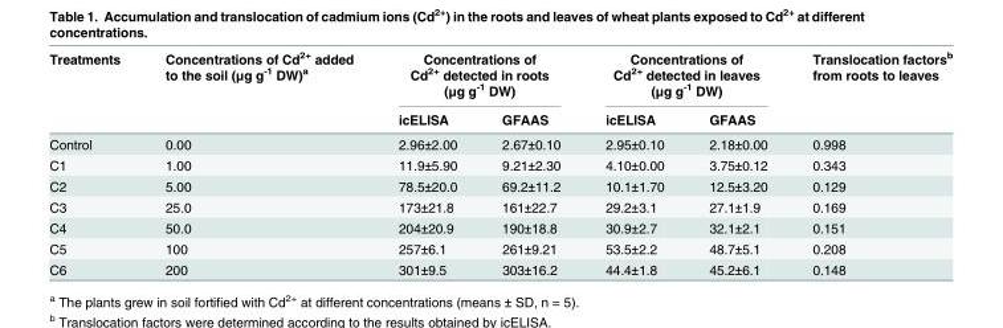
<table><thead><tr><td rowspan="2">Treatments</td><td rowspan="2">Concentrations of Cd<sup>2+</sup> added to the soil (μg g<sup>-1</sup> DW)<sup>a</sup></td><td colspan="2">Concentrations of Cd<sup>2+</sup> detected in roots (μg g<sup>-1</sup> DW)</td><td colspan="2">Concentrations of Cd<sup>2+</sup> detected in leaves (μg g<sup>-1</sup> DW)</td><td rowspan="2">Translocation factors<sup>b</sup> from roots to leaves</td></tr><tr><td>icELISA</td><td>GFAAS</td><td>icELISA</td><td>GFAAS</td></tr></thead><tbody><tr><td>Control</td><td>0.00</td><td>2.96±2.00</td><td>2.67±0.10</td><td>2.95±0.10</td><td>2.18±0.00</td><td>0.998</td></tr><tr><td>C1</td><td>1.00</td><td>11.9±5.90</td><td>9.21±2.30</td><td>4.10±0.00</td><td>3.75±0.12</td><td>0.343</td></tr><tr><td>C2</td><td>5.00</td><td>78.5±20.0</td><td>69.2±11.2</td><td>10.1±1.70</td><td>12.5±3.20</td><td>0.129</td></tr><tr><td>C3</td><td>25.0</td><td>173±21.8</td><td>161±22.7</td><td>29.2±3.1</td><td>27.1±1.9</td><td>0.169</td></tr><tr><td>C4</td><td>50.0</td><td>204±20.9</td><td>190±18.8</td><td>30.9±2.7</td><td>32.1±2.1</td><td>0.151</td></tr><tr><td>C5</td><td>100</td><td>257±6.1</td><td>261±9.21</td><td>53.5±2.2</td><td>48.7±5.1</td><td>0.208</td></tr><tr><td>C6</td><td>200</td><td>301±9.5</td><td>303±16.2</td><td>44.4±1.8</td><td>45.2±6.1</td><td>0.148</td></tr></tbody></table>